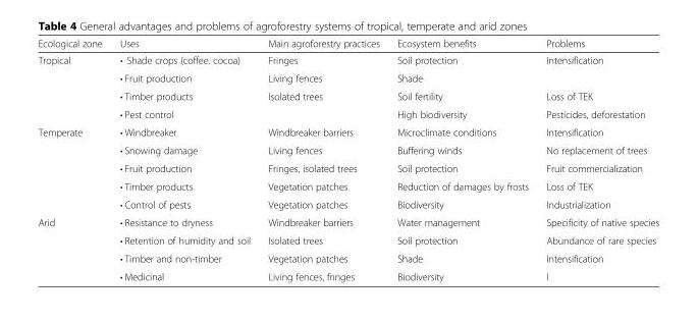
<table><thead><tr><td>Ecological zone</td><td>Uses</td><td>Main agroforestry practices</td><td>Ecosystem benefits</td><td>Problems</td></tr></thead><tbody><tr><td rowspan="4">Tropical</td><td>• Shade crops (coffee. cocoa)</td><td>Fringes</td><td>Soil protection</td><td>Intensification</td></tr><tr><td>• Fruit production</td><td>Living fences</td><td>Shade</td><td></td></tr><tr><td>• Timber products</td><td>Isolated trees</td><td>Soil fertility</td><td>Loss of TEK</td></tr><tr><td>• Pest control</td><td></td><td>High biodiversity</td><td>Pesticides, deforestation</td></tr><tr><td rowspan="5">Temperate</td><td>• Windbreaker</td><td>Windbreaker barriers</td><td>Microclimate conditions</td><td>Intensification</td></tr><tr><td>• Snowing damage</td><td>Living fences</td><td>Buffering winds</td><td>No replacement of trees</td></tr><tr><td>• Fruit production</td><td>Fringes, isolated trees</td><td>Soil protection</td><td>Fruit commercialization</td></tr><tr><td>• Timber products</td><td>Vegetation patches</td><td>Reduction of damages by frosts</td><td>Loss of TEK</td></tr><tr><td>• Control of pests</td><td>Vegetation patches</td><td>Biodiversity</td><td>Industrialization</td></tr><tr><td rowspan="4">Arid</td><td>• Resistance to dryness</td><td>Windbreaker barriers</td><td>Water management</td><td>Specificity of native species</td></tr><tr><td>• Retention of humidity and soil</td><td>Isolated trees</td><td>Soil protection</td><td>Abundance of rare species</td></tr><tr><td>• Timber and non-timber</td><td>Vegetation patches</td><td>Shade</td><td>Intensification</td></tr><tr><td>• Medicinal</td><td>Living fences, fringes</td><td>Biodiversity</td><td>I</td></tr></tbody></table>